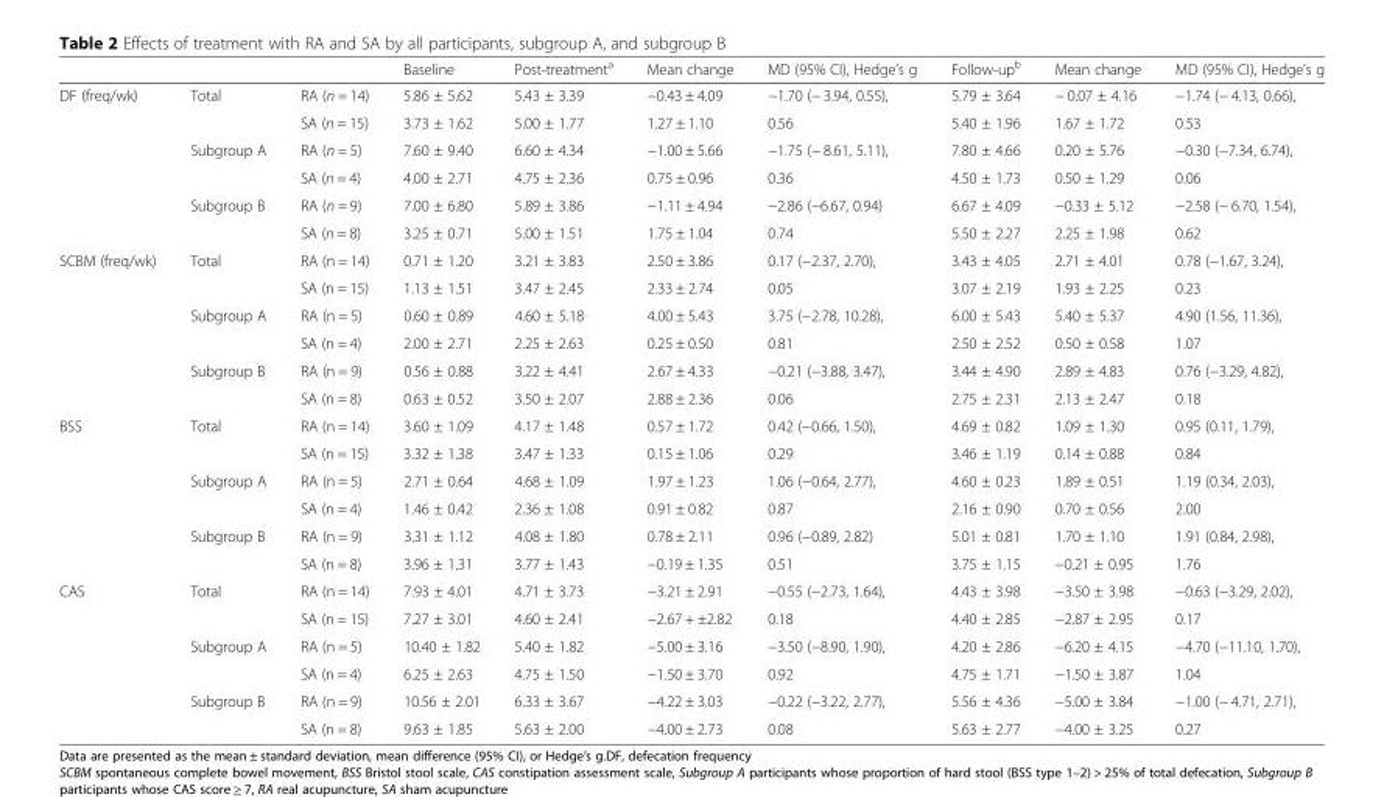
<table><thead><tr><td></td><td></td><td></td><td>Baseline</td><td>Post-treatment<sup>a</sup></td><td>Mean change</td><td>MD (95% CI), Hedge’s g</td><td>Follow-up<sup>b</sup></td><td>Mean change</td><td>MD (95% CI), Hedge’s g</td></tr></thead><tbody><tr><td rowspan="6">DF (freq/wk)</td><td rowspan="2">Total</td><td>RA (n = 14)</td><td>5.86 ± 5.62</td><td>5.43 ± 3.39</td><td>−0.43 ± 4.09</td><td>−1.70 (− 3.94, 0.55),</td><td>5.79 ± 3.64</td><td>− 0.07 ± 4.16</td><td>−1.74 (− 4.13, 0.66),</td></tr><tr><td>SA (n = 15)</td><td>3.73 ± 1.62</td><td>5.00 ± 1.77</td><td>1.27 ± 1.10</td><td>0.56</td><td>5.40 ± 1.96</td><td>1.67 ± 1.72</td><td>0.53</td></tr><tr><td rowspan="2">Subgroup A</td><td>RA (n = 5)</td><td>7.60 ± 9.40</td><td>6.60 ± 4.34</td><td>−1.00 ± 5.66</td><td>−1.75 (− 8.61, 5.11),</td><td>7.80 ± 4.66</td><td>0.20 ± 5.76</td><td>−0.30 (−7.34, 6.74),</td></tr><tr><td>SA (n = 4)</td><td>4.00 ± 2.71</td><td>4.75 ± 2.36</td><td>0.75 ± 0.96</td><td>0.36</td><td>4.50 ± 1.73</td><td>0.50 ± 1.29</td><td>0.06</td></tr><tr><td rowspan="2">Subgroup B</td><td>RA (n = 9)</td><td>7.00 ± 6.80</td><td>5.89 ± 3.86</td><td>−1.11 ± 4.94</td><td>−2.86 (−6.67, 0.94)</td><td>6.67 ± 4.09</td><td>−0.33 ± 5.12</td><td>−2.58 (− 6.70, 1.54),</td></tr><tr><td>SA (n = 8)</td><td>3.25 ± 0.71</td><td>5.00 ± 1.51</td><td>1.75 ± 1.04</td><td>0.74</td><td>5.50 ± 2.27</td><td>2.25 ± 1.98</td><td>0.62</td></tr><tr><td rowspan="6">SCBM (freq/wk)</td><td rowspan="2">Total</td><td>RA (n = 14)</td><td>0.71 ± 1.20</td><td>3.21 ± 3.83</td><td>2.50 ± 3.86</td><td>0.17 (−2.37, 2.70),</td><td>3.43 ± 4.05</td><td>2.71 ± 4.01</td><td>0.78 (−1.67, 3.24),</td></tr><tr><td>SA (n = 15)</td><td>1.13 ± 1.51</td><td>3.47 ± 2.45</td><td>2.33 ± 2.74</td><td>0.05</td><td>3.07 ± 2.19</td><td>1.93 ± 2.25</td><td>0.23</td></tr><tr><td rowspan="2">Subgroup A</td><td>RA (n = 5)</td><td>0.60 ± 0.89</td><td>4.60 ± 5.18</td><td>4.00 ± 5.43</td><td>3.75 (−2.78, 10.28),</td><td>6.00 ± 5.43</td><td>5.40 ± 5.37</td><td>4.90 (1.56, 11.36),</td></tr><tr><td>SA (n = 4)</td><td>2.00 ± 2.71</td><td>2.25 ± 2.63</td><td>0.25 ± 0.50</td><td>0.81</td><td>2.50 ± 2.52</td><td>0.50 ± 0.58</td><td>1.07</td></tr><tr><td rowspan="2">Subgroup B</td><td>RA (n = 9)</td><td>0.56 ± 0.88</td><td>3.22 ± 4.41</td><td>2.67 ± 4.33</td><td>−0.21 (−3.88, 3.47),</td><td>3.44 ± 4.90</td><td>2.89 ± 4.83</td><td>0.76 (−3.29, 4.82),</td></tr><tr><td>SA (n = 8)</td><td>0.63 ± 0.52</td><td>3.50 ± 2.07</td><td>2.88 ± 2.36</td><td>0.06</td><td>2.75 ± 2.31</td><td>2.13 ± 2.47</td><td>0.18</td></tr><tr><td rowspan="6">BSS</td><td rowspan="2">Total</td><td>RA (n = 14)</td><td>3.60 ± 1.09</td><td>4.17 ± 1.48</td><td>0.57 ± 1.72</td><td>0.42 (−0.66, 1.50),</td><td>4.69 ± 0.82</td><td>1.09 ± 1.30</td><td>0.95 (0.11, 1.79),</td></tr><tr><td>SA (n = 15)</td><td>3.32 ± 1.38</td><td>3.47 ± 1.33</td><td>0.15 ± 1.06</td><td>0.29</td><td>3.46 ± 1.19</td><td>0.14 ± 0.88</td><td>0.84</td></tr><tr><td rowspan="2">Subgroup A</td><td>RA (n = 5)</td><td>2.71 ± 0.64</td><td>4.68 ± 1.09</td><td>1.97 ± 1.23</td><td>1.06 (−0.64, 2.77),</td><td>4.60 ± 0.23</td><td>1.89 ± 0.51</td><td>1.19 (0.34, 2.03),</td></tr><tr><td>SA (n = 4)</td><td>1.46 ± 0.42</td><td>2.36 ± 1.08</td><td>0.91 ± 0.82</td><td>0.87</td><td>2.16 ± 0.90</td><td>0.70 ± 0.56</td><td>2.00</td></tr><tr><td rowspan="2">Subgroup B</td><td>RA (n = 9)</td><td>3.31 ± 1.12</td><td>4.08 ± 1.80</td><td>0.78 ± 2.11</td><td>0.96 (−0.89, 2.82)</td><td>5.01 ± 0.81</td><td>1.70 ± 1.10</td><td>1.91 (0.84, 2.98),</td></tr><tr><td>SA (n = 8)</td><td>3.96 ± 1.31</td><td>3.77 ± 1.43</td><td>−0.19 ± 1.35</td><td>0.51</td><td>3.75 ± 1.15</td><td>−0.21 ± 0.95</td><td>1.76</td></tr><tr><td rowspan="6">CAS</td><td rowspan="2">Total</td><td>RA (n = 14)</td><td>7.93 ± 4.01</td><td>4.71 ± 3.73</td><td>−3.21 ± 2.91</td><td>−0.55 (−2.73, 1.64),</td><td>4.43 ± 3.98</td><td>−3.50 ± 3.98</td><td>−0.63 (−3.29, 2.02),</td></tr><tr><td>SA (n = 15)</td><td>7.27 ± 3.01</td><td>4.60 ± 2.41</td><td>−2.67 + ±2.82</td><td>0.18</td><td>4.40 ± 2.85</td><td>−2.87 ± 2.95</td><td>0.17</td></tr><tr><td rowspan="2">Subgroup A</td><td>RA (n = 5)</td><td>10.40 ± 1.82</td><td>5.40 ± 1.82</td><td>−5.00 ± 3.16</td><td>−3.50 (−8.90, 1.90),</td><td>4.20 ± 2.86</td><td>−6.20 ± 4.15</td><td>−4.70 (−11.10, 1.70),</td></tr><tr><td>SA (n = 4)</td><td>6.25 ± 2.63</td><td>4.75 ± 1.50</td><td>−1.50 ± 3.70</td><td>0.92</td><td>4.75 ± 1.71</td><td>−1.50 ± 3.87</td><td>1.04</td></tr><tr><td rowspan="2">Subgroup B</td><td>RA (n = 9)</td><td>10.56 ± 2.01</td><td>6.33 ± 3.67</td><td>−4.22 ± 3.03</td><td>−0.22 (−3.22, 2.77),</td><td>5.56 ± 4.36</td><td>−5.00 ± 3.84</td><td>−1.00 (− 4.71, 2.71),</td></tr><tr><td>SA (n = 8)</td><td>9.63 ± 1.85</td><td>5.63 ± 2.00</td><td>−4.00 ± 2.73</td><td>0.08</td><td>5.63 ± 2.77</td><td>−4.00 ± 3.25</td><td>0.27</td></tr></tbody></table>